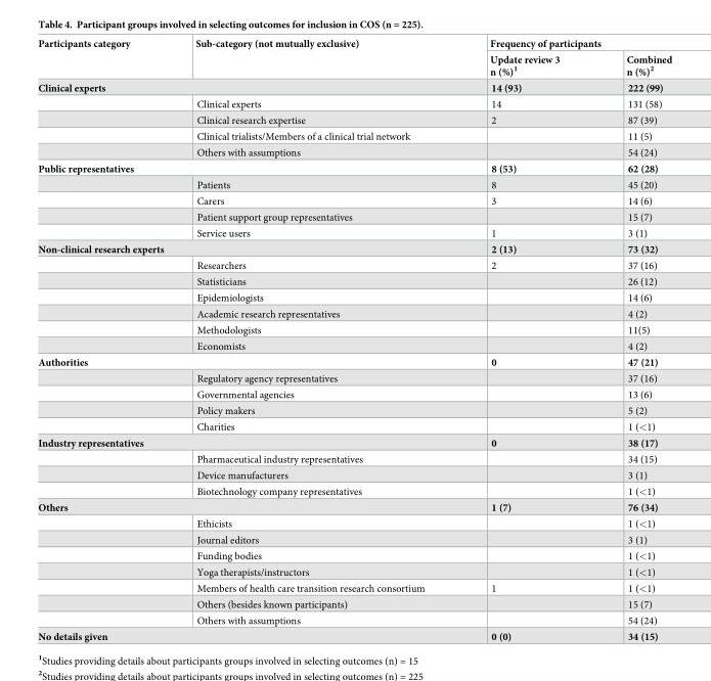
<table><thead><tr><td rowspan="2">Participants category</td><td rowspan="2">Sub-category (not mutually exclusive)</td><td colspan="2">Frequency of participants</td></tr><tr><td>Update review 3 n (%)<sup>1</sup></td><td>Combined n (%)<sup>2</sup></td></tr></thead><tbody><tr><td colspan="2">Clinical experts</td><td>14 (93)</td><td>222 (99)</td></tr><tr><td></td><td>Clinical experts</td><td>14</td><td>131 (58)</td></tr><tr><td></td><td>Clinical research expertise</td><td>2</td><td>87 (39)</td></tr><tr><td></td><td>Clinical trialists/Members of a clinical trial network</td><td></td><td>11 (5)</td></tr><tr><td></td><td>Others with assumptions</td><td></td><td>54 (24)</td></tr><tr><td colspan="2">Public representatives</td><td>8 (53)</td><td>62 (28)</td></tr><tr><td></td><td>Patients</td><td>8</td><td>45 (20)</td></tr><tr><td></td><td>Carers</td><td>3</td><td>14 (6)</td></tr><tr><td></td><td>Patient support group representatives</td><td></td><td>15 (7)</td></tr><tr><td></td><td>Service users</td><td>1</td><td>3 (1)</td></tr><tr><td colspan="2">Non-clinical research experts</td><td>2 (13)</td><td>73 (32)</td></tr><tr><td></td><td>Researchers</td><td>2</td><td>37 (16)</td></tr><tr><td></td><td>Statisticians</td><td></td><td>26 (12)</td></tr><tr><td></td><td>Epidemiologists</td><td></td><td>14 (6)</td></tr><tr><td></td><td>Academic research representatives</td><td></td><td>4 (2)</td></tr><tr><td></td><td>Methodologists</td><td></td><td>11(5)</td></tr><tr><td></td><td>Economists</td><td></td><td>4 (2)</td></tr><tr><td colspan="2">Authorities</td><td>0</td><td>47 (21)</td></tr><tr><td></td><td>Regulatory agency representatives</td><td></td><td>37 (16)</td></tr><tr><td></td><td>Governmental agencies</td><td></td><td>13 (6)</td></tr><tr><td></td><td>Policy makers</td><td></td><td>5 (2)</td></tr><tr><td></td><td>Charities</td><td></td><td>1 (&lt;1)</td></tr><tr><td colspan="2">Industry representatives</td><td>0</td><td>38 (17)</td></tr><tr><td></td><td>Pharmaceutical industry representatives</td><td></td><td>34 (15)</td></tr><tr><td></td><td>Device manufacturers</td><td></td><td>3 (1)</td></tr><tr><td></td><td>Biotechnology company representatives</td><td></td><td>1 (&lt;1)</td></tr><tr><td colspan="2">Others</td><td>1 (7)</td><td>76 (34)</td></tr><tr><td></td><td>Ethicists</td><td></td><td>1 (&lt;1)</td></tr><tr><td></td><td>Journal editors</td><td></td><td>3 (1)</td></tr><tr><td></td><td>Funding bodies</td><td></td><td>1 (&lt;1)</td></tr><tr><td></td><td>Yoga therapists/instructors</td><td></td><td>1 (&lt;1)</td></tr><tr><td></td><td>Members of health care transition research consortium</td><td>1</td><td>1 (&lt;1)</td></tr><tr><td></td><td>Others (besides known participants)</td><td></td><td>15 (7)</td></tr><tr><td></td><td>Others with assumptions</td><td></td><td>54 (24)</td></tr><tr><td colspan="2">No details given</td><td>0 (0)</td><td>34 (15)</td></tr></tbody></table>